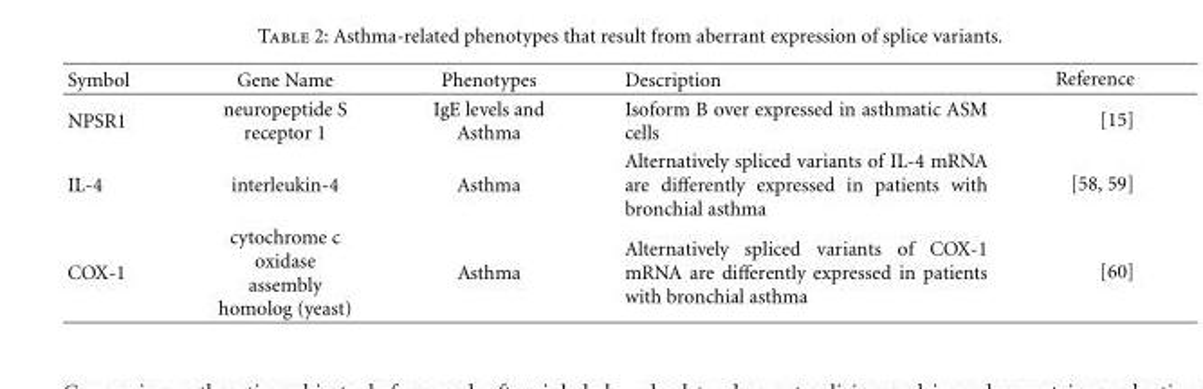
<table><thead><tr><td>Symbol</td><td>Gene Name</td><td>Phenotypes</td><td>Description</td><td>Reference</td></tr></thead><tbody><tr><td>NPSR1</td><td>neuropeptide S receptor 1</td><td>IgE levels and Asthma</td><td>Isoform B over expressed in asthmatic ASM cells</td><td>[15]</td></tr><tr><td>IL-4</td><td>interleukin-4</td><td>Asthma</td><td>Alternatively spliced variants of IL-4 mRNA are differently expressed in patients with bronchial asthma</td><td>[58, 59]</td></tr><tr><td>COX-1</td><td>cytochrome c oxidase assembly homolog (yeast)</td><td>Asthma</td><td>Alternatively spliced variants of COX-1 mRNA are differently expressed in patients with bronchial asthma</td><td>[60]</td></tr></tbody></table>